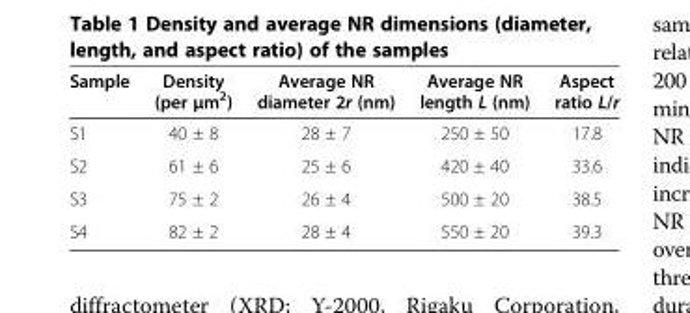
<table><thead><tr><td>Sample</td><td>Density (per μm<sup>2</sup>)</td><td>Average NR diameter 2r (nm)</td><td>Average NR length L (nm)</td><td>Aspect ratio L/r</td></tr></thead><tbody><tr><td>S1</td><td>40 ± 8</td><td>28 ± 7</td><td>250 ± 50</td><td>17.8</td></tr><tr><td>S2</td><td>61 ± 6</td><td>25 ± 6</td><td>420 ± 40</td><td>33.6</td></tr><tr><td>S3</td><td>75 ± 2</td><td>26 ± 4</td><td>500 ± 20</td><td>38.5</td></tr><tr><td>S4</td><td>82 ± 2</td><td>28 ± 4</td><td>550 ± 20</td><td>39.3</td></tr></tbody></table>